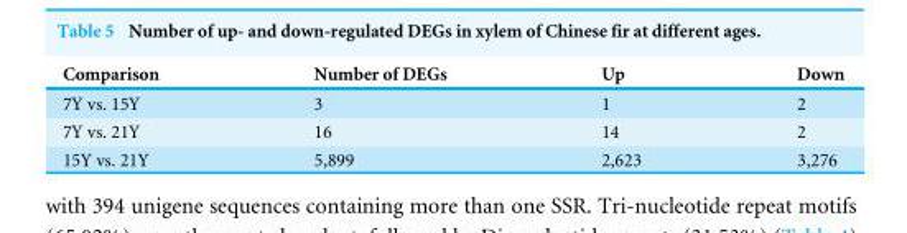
<table><thead><tr><td>Comparison</td><td>Number of DEGs</td><td>Up</td><td>Down</td></tr></thead><tbody><tr><td>7Y vs. 15Y</td><td>3</td><td>1</td><td>2</td></tr><tr><td>7Y vs. 21Y</td><td>16</td><td>14</td><td>2</td></tr><tr><td>15Y vs. 21Y</td><td>5,899</td><td>2,623</td><td>3,276</td></tr></tbody></table>